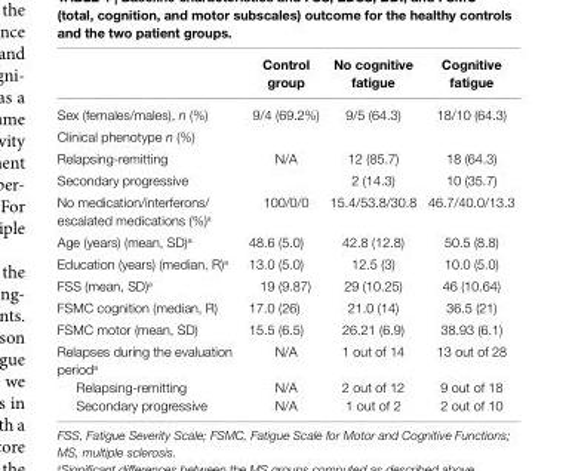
<table><thead><tr><td></td><td>control group</td><td>no cognitive fatigue</td><td>cognitive fatigue</td></tr></thead><tbody><tr><td>Sex (females/males), n (%)</td><td>9/4 (69.2%)</td><td>9/5 (64.3)</td><td>18/10 (64.3)</td></tr><tr><td colspan="4">Clinical phenotype n (%)</td></tr><tr><td>Relapsing-remitting</td><td rowspan="2">N/A</td><td>12 (85.7)</td><td>18 (64.3)</td></tr><tr><td>Secondary progressive</td><td>2 (14.3)</td><td>10 (35.7)</td></tr><tr><td>No medication/interferons/ escalated medications (%)<sup>a</sup></td><td>100/0/0</td><td>15.4/53.8/30.8</td><td>46.7/40.0/13.3</td></tr><tr><td>Age (years) (mean, SD)<sup>a</sup></td><td>48.6 (5.0)</td><td>42.8 (12.8)</td><td>50.5 (8.8)</td></tr><tr><td>Education (years) (median, R)<sup>a</sup></td><td>13.0 (5.0)</td><td>12.5 (3)</td><td>10.0 (5.0)</td></tr><tr><td>FSS (mean, SD)<sup>a</sup></td><td>19 (9.87)</td><td>29 (10.25)</td><td>46 (10.64)</td></tr><tr><td>FSMC cognition (median, R)</td><td>17.0 (26)</td><td>21.0 (14)</td><td>36.5 (21)</td></tr><tr><td>FSMC motor (mean, SD)</td><td>15.5 (6.5)</td><td>26.21 (6.9)</td><td>38.93 (6.1)</td></tr><tr><td>Relapses during the evaluation period<sup>a</sup></td><td>N/A</td><td>1 out of 14</td><td>13 out of 28</td></tr><tr><td>Relapsing-remitting</td><td>N/A</td><td>2 out of 12</td><td>9 out of 18</td></tr><tr><td>Secondary progressive</td><td>N/A</td><td>1 out of 2</td><td>2 out of 10</td></tr></tbody></table>